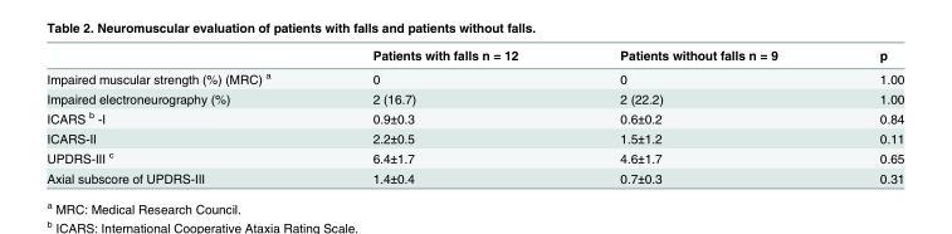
<table><thead><tr><td></td><td>Patients with falls n = 12</td><td>Patients without falls n = 9</td><td>p</td></tr></thead><tbody><tr><td>Impaired muscular strength (%) (MRC) <sup>a</sup></td><td>0</td><td>0</td><td>1.00</td></tr><tr><td>Impaired electroneurography (%)</td><td>2 (16.7)</td><td>2 (22.2)</td><td>1.00</td></tr><tr><td>ICARS <sup>b</sup> -I</td><td>0.9±0.3</td><td>0.6±0.2</td><td>0.84</td></tr><tr><td>ICARS-II</td><td>2.2±0.5</td><td>1.5±1.2</td><td>0.11</td></tr><tr><td>UPDRS-III <sup>c</sup></td><td>6.4±1.7</td><td>4.6±1.7</td><td>0.65</td></tr><tr><td>Axial subscore of UPDRS-III</td><td>1.4±0.4</td><td>0.7±0.3</td><td>0.31</td></tr></tbody></table>